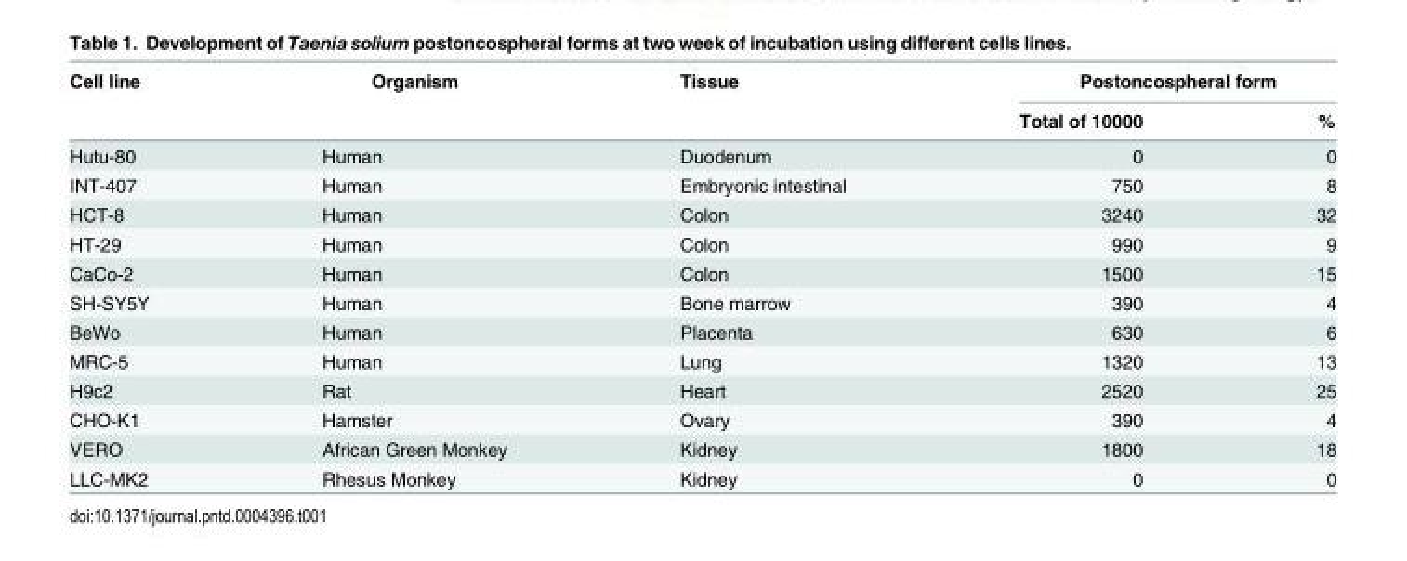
<table><thead><tr><td rowspan="2">Cell line</td><td rowspan="2">Organism</td><td rowspan="2">Tissue</td><td colspan="2">Postoncospheral form</td></tr><tr><td>Total of 10000</td><td>%</td></tr></thead><tbody><tr><td>Hutu-80</td><td>Human</td><td>Duodenum</td><td>0</td><td>0</td></tr><tr><td>INT-407</td><td>Human</td><td>Embryonic intestinal</td><td>750</td><td>8</td></tr><tr><td>HCT-8</td><td>Human</td><td>Colon</td><td>3240</td><td>32</td></tr><tr><td>HT-29</td><td>Human</td><td>Colon</td><td>990</td><td>9</td></tr><tr><td>CaCo-2</td><td>Human</td><td>Colon</td><td>1500</td><td>15</td></tr><tr><td>SH-SY5Y</td><td>Human</td><td>Bone marrow</td><td>390</td><td>4</td></tr><tr><td>BeWo</td><td>Human</td><td>Placenta</td><td>630</td><td>6</td></tr><tr><td>MRC-5</td><td>Human</td><td>Lung</td><td>1320</td><td>13</td></tr><tr><td>H9c2</td><td>Rat</td><td>Heart</td><td>2520</td><td>25</td></tr><tr><td>CHO-K1</td><td>Hamster</td><td>Ovary</td><td>390</td><td>4</td></tr><tr><td>VERO</td><td>African Green Monkey</td><td>Kidney</td><td>1800</td><td>18</td></tr><tr><td>LLC-MK2</td><td>Rhesus Monkey</td><td>Kidney</td><td>0</td><td>0</td></tr></tbody></table>